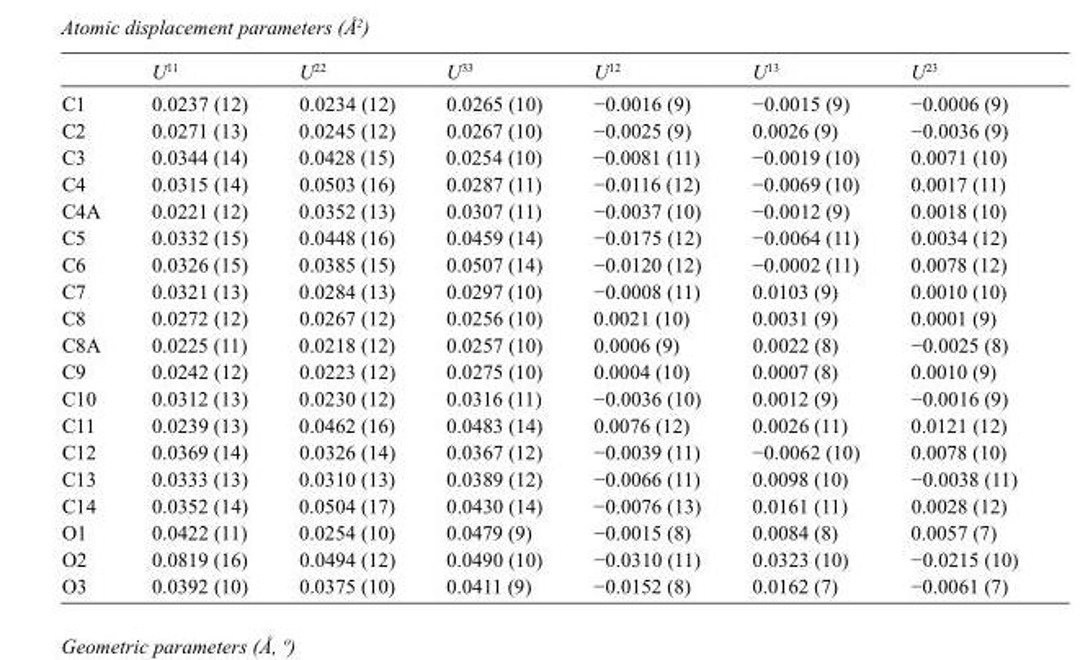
<table><thead><tr><td></td><td>U<sup>11</sup></td><td>U<sup>22</sup></td><td>U<sup>33</sup></td><td>U<sup>12</sup></td><td>U<sup>13</sup></td><td>U<sup>23</sup></td></tr></thead><tbody><tr><td>C1</td><td>0.0237 (12)</td><td>0.0234 (12)</td><td>0.0265 (10)</td><td>−0.0016 (9)</td><td>−0.0015 (9)</td><td>−0.0006 (9)</td></tr><tr><td>C2</td><td>0.0271 (13)</td><td>0.0245 (12)</td><td>0.0267 (10)</td><td>−0.0025 (9)</td><td>0.0026 (9)</td><td>−0.0036 (9)</td></tr><tr><td>C3</td><td>0.0344 (14)</td><td>0.0428 (15)</td><td>0.0254 (10)</td><td>−0.0081 (11)</td><td>−0.0019 (10)</td><td>0.0071 (10)</td></tr><tr><td>C4</td><td>0.0315 (14)</td><td>0.0503 (16)</td><td>0.0287 (11)</td><td>−0.0116 (12)</td><td>−0.0069 (10)</td><td>0.0017 (11)</td></tr><tr><td>C4A</td><td>0.0221 (12)</td><td>0.0352 (13)</td><td>0.0307 (11)</td><td>−0.0037 (10)</td><td>−0.0012 (9)</td><td>0.0018 (10)</td></tr><tr><td>C5</td><td>0.0332 (15)</td><td>0.0448 (16)</td><td>0.0459 (14)</td><td>−0.0175 (12)</td><td>−0.0064 (11)</td><td>0.0034 (12)</td></tr><tr><td>C6</td><td>0.0326 (15)</td><td>0.0385 (15)</td><td>0.0507 (14)</td><td>−0.0120 (12)</td><td>−0.0002 (11)</td><td>0.0078 (12)</td></tr><tr><td>C7</td><td>0.0321 (13)</td><td>0.0284 (13)</td><td>0.0297 (10)</td><td>−0.0008 (11)</td><td>0.0103 (9)</td><td>0.0010 (10)</td></tr><tr><td>C8</td><td>0.0272 (12)</td><td>0.0267 (12)</td><td>0.0256 (10)</td><td>0.0021 (10)</td><td>0.0031 (9)</td><td>0.0001 (9)</td></tr><tr><td>C8A</td><td>0.0225 (11)</td><td>0.0218 (12)</td><td>0.0257 (10)</td><td>0.0006 (9)</td><td>0.0022 (8)</td><td>−0.0025 (8)</td></tr><tr><td>C9</td><td>0.0242 (12)</td><td>0.0223 (12)</td><td>0.0275 (10)</td><td>0.0004 (10)</td><td>0.0007 (8)</td><td>0.0010 (9)</td></tr><tr><td>C10</td><td>0.0312 (13)</td><td>0.0230 (12)</td><td>0.0316 (11)</td><td>−0.0036 (10)</td><td>0.0012 (9)</td><td>−0.0016 (9)</td></tr><tr><td>C11</td><td>0.0239 (13)</td><td>0.0462 (16)</td><td>0.0483 (14)</td><td>0.0076 (12)</td><td>0.0026 (11)</td><td>0.0121 (12)</td></tr><tr><td>C12</td><td>0.0369 (14)</td><td>0.0326 (14)</td><td>0.0367 (12)</td><td>−0.0039 (11)</td><td>−0.0062 (10)</td><td>0.0078 (10)</td></tr><tr><td>C13</td><td>0.0333 (13)</td><td>0.0310 (13)</td><td>0.0389 (12)</td><td>−0.0066 (11)</td><td>0.0098 (10)</td><td>−0.0038 (11)</td></tr><tr><td>C14</td><td>0.0352 (14)</td><td>0.0504 (17)</td><td>0.0430 (14)</td><td>−0.0076 (13)</td><td>0.0161 (11)</td><td>0.0028 (12)</td></tr><tr><td>O1</td><td>0.0422 (11)</td><td>0.0254 (10)</td><td>0.0479 (9)</td><td>−0.0015 (8)</td><td>0.0084 (8)</td><td>0.0057 (7)</td></tr><tr><td>O2</td><td>0.0819 (16)</td><td>0.0494 (12)</td><td>0.0490 (10)</td><td>−0.0310 (11)</td><td>0.0323 (10)</td><td>−0.0215 (10)</td></tr><tr><td>O3</td><td>0.0392 (10)</td><td>0.0375 (10)</td><td>0.0411 (9)</td><td>−0.0152 (8)</td><td>0.0162 (7)</td><td>−0.0061 (7)</td></tr></tbody></table>